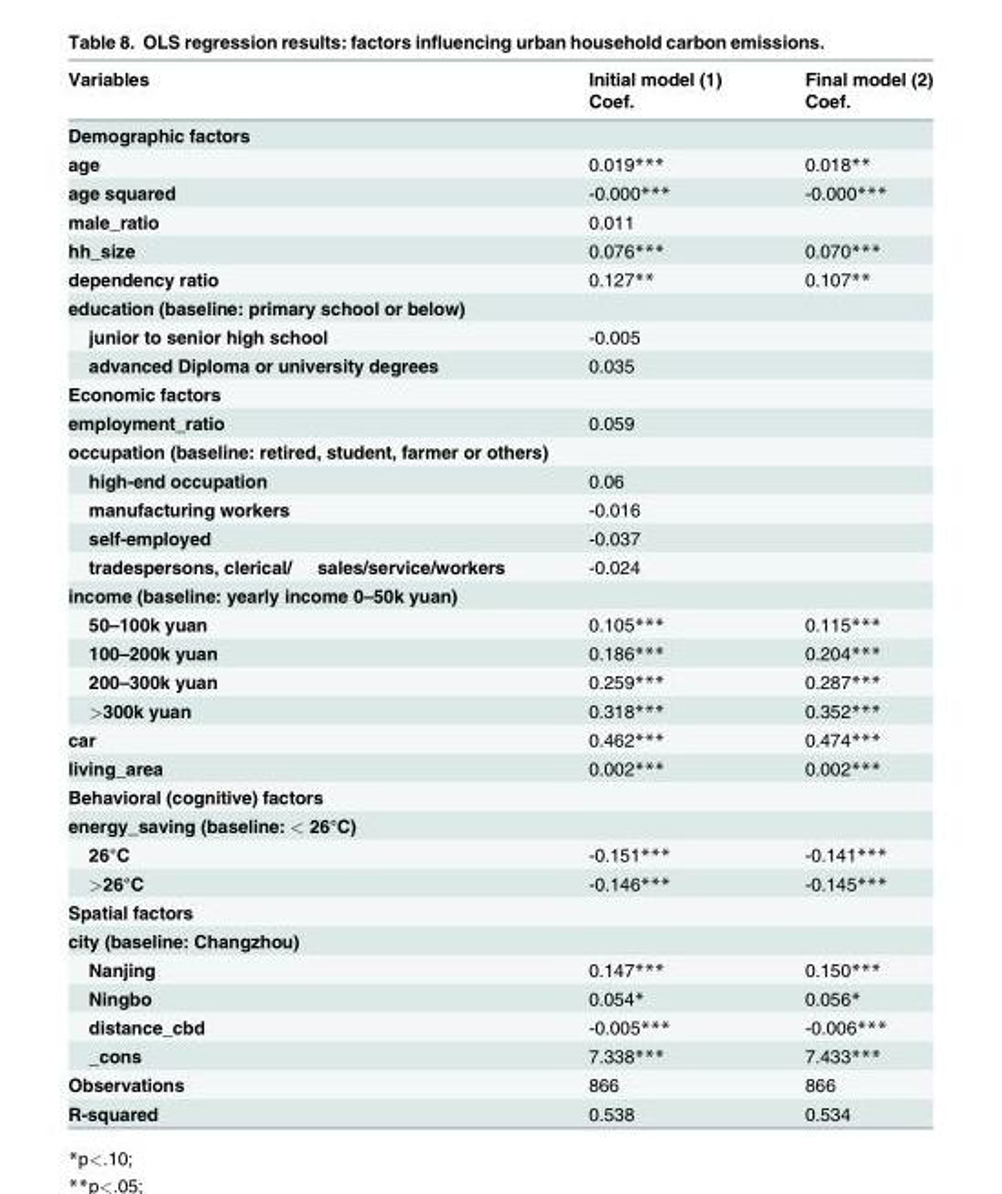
<table><thead><tr><td rowspan="2">Variables</td><td rowspan="2">Initial model (1) Coef.</td><td rowspan="2">Final model (2) Coef.</td></tr><tr></tr></thead><tbody><tr><td colspan="3">Demographic factors</td></tr><tr><td>age</td><td>0.019***</td><td>0.018**</td></tr><tr><td>age squared</td><td>-0.000***</td><td>-0.000***</td></tr><tr><td>male_ratio</td><td>0.011</td><td></td></tr><tr><td>hh_size</td><td>0.076***</td><td>0.070***</td></tr><tr><td>dependency ratio</td><td>0.127**</td><td>0.107**</td></tr><tr><td colspan="3">education (baseline: primary school or below)</td></tr><tr><td>junior to senior high school</td><td>-0.005</td><td></td></tr><tr><td>advanced Diploma or university degrees</td><td>0.035</td><td></td></tr><tr><td colspan="3">Economic factors</td></tr><tr><td>employment_ratio</td><td>0.059</td><td></td></tr><tr><td colspan="3">occupation (baseline: retired, student, farmer or others)</td></tr><tr><td>high-end occupation</td><td>0.06</td><td></td></tr><tr><td>manufacturing workers</td><td>-0.016</td><td></td></tr><tr><td>self-employed</td><td>-0.037</td><td></td></tr><tr><td>tradespersons, clerical/ sales/service/workers</td><td>-0.024</td><td></td></tr><tr><td colspan="3">income (baseline: yearly income 0–50k yuan)</td></tr><tr><td>50–100k yuan</td><td>0.105***</td><td>0.115***</td></tr><tr><td>100–200k yuan</td><td>0.186***</td><td>0.204***</td></tr><tr><td>200–300k yuan</td><td>0.259***</td><td>0.287***</td></tr><tr><td>&gt;300k yuan</td><td>0.318***</td><td>0.352***</td></tr><tr><td>car</td><td>0.462***</td><td>0.474***</td></tr><tr><td>living_area</td><td>0.002***</td><td>0.002***</td></tr><tr><td colspan="3">Behavioral (cognitive) factors</td></tr><tr><td colspan="3">energy_saving (baseline: &lt; 26°C)</td></tr><tr><td>26°C</td><td>-0.151***</td><td>-0.141***</td></tr><tr><td>&gt;26°C</td><td>-0.146***</td><td>-0.145***</td></tr><tr><td colspan="3">Spatial factors</td></tr><tr><td colspan="3">city (baseline: Changzhou)</td></tr><tr><td>Nanjing</td><td>0.147***</td><td>0.150***</td></tr><tr><td>Ningbo</td><td>0.054*</td><td>0.056*</td></tr><tr><td>distance_cbd</td><td>-0.005***</td><td>-0.006***</td></tr><tr><td>_cons</td><td>7.338***</td><td>7.433***</td></tr><tr><td>Observations</td><td>866</td><td>866</td></tr><tr><td>R-squared</td><td>0.538</td><td>0.534</td></tr></tbody></table>